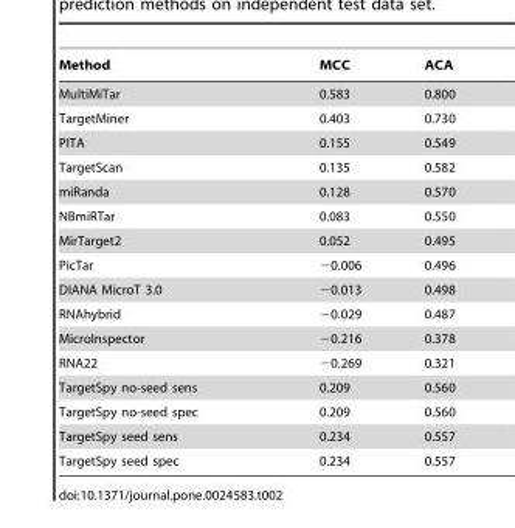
<table><thead><tr><td>Method</td><td>MCC</td><td>ACA</td></tr></thead><tbody><tr><td>MultiMiTar</td><td>0.583</td><td>0.800</td></tr><tr><td>TargetMiner</td><td>0.403</td><td>0.730</td></tr><tr><td>PITA</td><td>0.155</td><td>0.549</td></tr><tr><td>TargetScan</td><td>0.135</td><td>0.582</td></tr><tr><td>miRanda</td><td>0.128</td><td>0.570</td></tr><tr><td>NBmiRTar</td><td>0.083</td><td>0.550</td></tr><tr><td>MirTarget2</td><td>0.052</td><td>0.495</td></tr><tr><td>PicTar</td><td>−0.006</td><td>0.496</td></tr><tr><td>DIANA MicroT 3.0</td><td>−0.013</td><td>0.498</td></tr><tr><td>RNAhybrid</td><td>−0.029</td><td>0.487</td></tr><tr><td>MicroInspector</td><td>−0.216</td><td>0.378</td></tr><tr><td>RNA22</td><td>−0.269</td><td>0.321</td></tr><tr><td>TargetSpy no-seed sens</td><td>0.209</td><td>0.560</td></tr><tr><td>TargetSpy no-seed spec</td><td>0.209</td><td>0.560</td></tr><tr><td>TargetSpy seed sens</td><td>0.234</td><td>0.557</td></tr><tr><td>TargetSpy seed spec</td><td>0.234</td><td>0.557</td></tr></tbody></table>